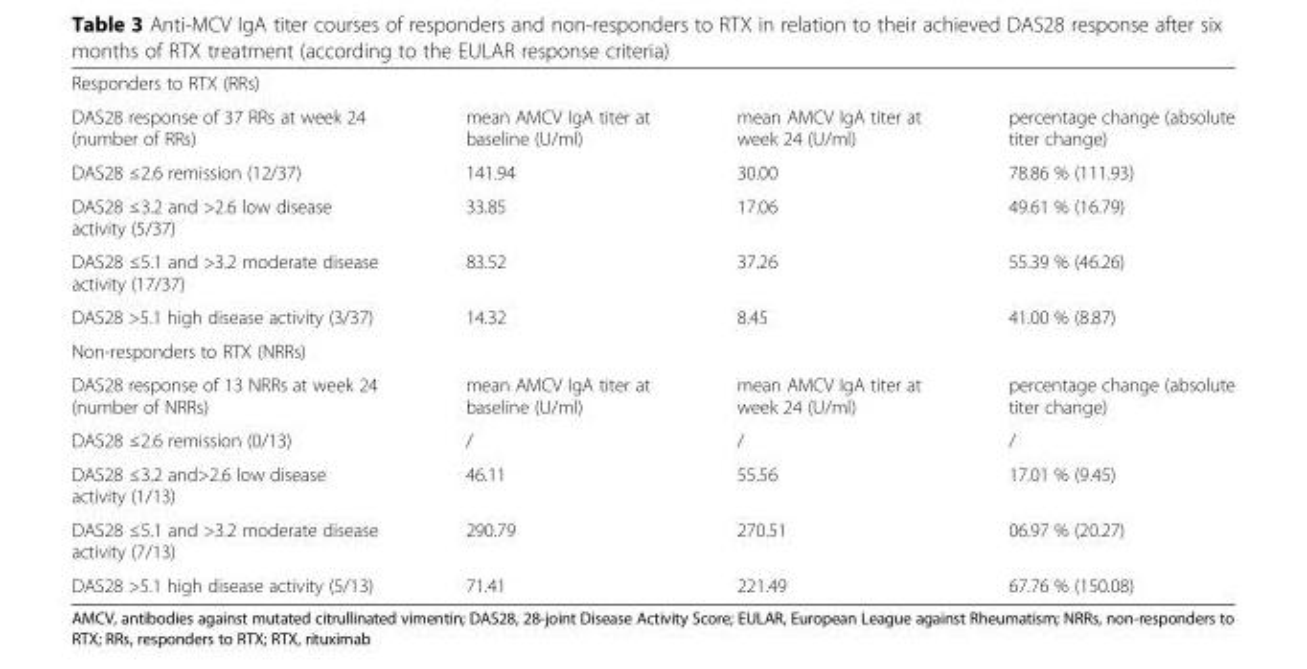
<table><tbody><tr><td colspan="4">Responders to RTX (RRs)</td></tr><tr><td>DAS28 response of 37 RRs at week 24 (number of RRs)</td><td>mean AMCV IgA titer at baseline (U/ml)</td><td>mean AMCV IgA titer at week 24 (U/ml)</td><td>percentage change (absolute titer change)</td></tr><tr><td>DAS28 ≤2.6 remission (12/37)</td><td>141.94</td><td>30.00</td><td>78.86 % (111.93)</td></tr><tr><td>DAS28 ≤3.2 and &gt;2.6 low disease activity (5/37)</td><td>33.85</td><td>17.06</td><td>49.61 % (16.79)</td></tr><tr><td>DAS28 ≤5.1 and &gt;3.2 moderate disease activity (17/37)</td><td>83.52</td><td>37.26</td><td>55.39 % (46.26)</td></tr><tr><td>DAS28 &gt;5.1 high disease activity (3/37)</td><td>14.32</td><td>8.45</td><td>41.00 % (8.87)</td></tr><tr><td colspan="4">Non-responders to RTX (NRRs)</td></tr><tr><td>DAS28 response of 13 NRRs at week 24 (number of NRRs)</td><td>mean AMCV IgA titer at baseline (U/ml)</td><td>mean AMCV IgA titer at week 24 (U/ml)</td><td>percentage change (absolute titer change)</td></tr><tr><td>DAS28 ≤2.6 remission (0/13)</td><td>/</td><td>/</td><td>/</td></tr><tr><td>DAS28 ≤3.2 and&gt;2.6 low disease activity (1/13)</td><td>46.11</td><td>55.56</td><td>17.01 % (9.45)</td></tr><tr><td>DAS28 ≤5.1 and &gt;3.2 moderate disease activity (7/13)</td><td>290.79</td><td>270.51</td><td>06.97 % (20.27)</td></tr><tr><td>DAS28 &gt;5.1 high disease activity (5/13)</td><td>71.41</td><td>221.49</td><td>67.76 % (150.08)</td></tr></tbody></table>